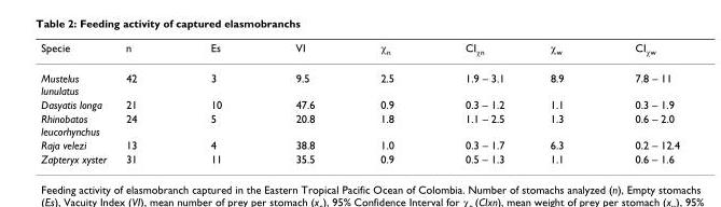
<table><thead><tr><td>Specie</td><td>n</td><td>Es</td><td>VI</td><td>χ<sub>n</sub></td><td>CI<sub>χn</sub></td><td>χ<sub>w</sub></td><td>CI<sub>χw</sub></td></tr></thead><tbody><tr><td>Mustelus lunulatus</td><td>42</td><td>3</td><td>9.5</td><td>2.5</td><td>1.9 – 3.1</td><td>8.9</td><td>7.8 – 11</td></tr><tr><td>Dasyatis longa</td><td>21</td><td>10</td><td>47.6</td><td>0.9</td><td>0.3 – 1.2</td><td>1.1</td><td>0.3 – 1.9</td></tr><tr><td>Rhinobatos leucorhynchus</td><td>24</td><td>5</td><td>20.8</td><td>1.8</td><td>1.1 – 2.5</td><td>1.3</td><td>0.6 – 2.0</td></tr><tr><td>Raja velezi</td><td>13</td><td>4</td><td>38.8</td><td>1.0</td><td>0.3 – 1.7</td><td>6.3</td><td>0.2 – 12.4</td></tr><tr><td>Zapteryx xyster</td><td>31</td><td>11</td><td>35.5</td><td>0.9</td><td>0.5 – 1.3</td><td>1.1</td><td>0.6 – 1.6</td></tr></tbody></table>